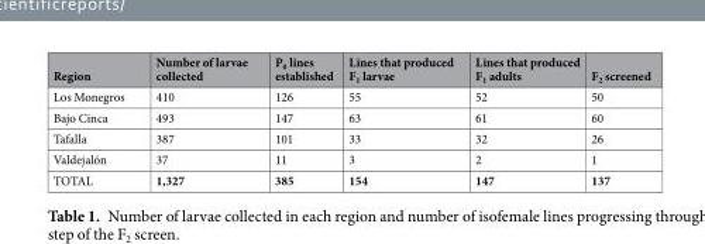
<table><thead><tr><td>Region</td><td>Number of larvae collected</td><td>P<sub>0</sub> lines established</td><td>Lines that produced F<sub>1</sub> larvae</td><td>Lines that produced F<sub>1</sub> adults</td><td>F<sub>2</sub> screened</td></tr></thead><tbody><tr><td>Los Monegros</td><td>410</td><td>126</td><td>55</td><td>52</td><td>50</td></tr><tr><td>Bajo Cinca</td><td>493</td><td>147</td><td>63</td><td>61</td><td>60</td></tr><tr><td>Tafalla</td><td>387</td><td>101</td><td>33</td><td>32</td><td>26</td></tr><tr><td>Valdejalón</td><td>37</td><td>11</td><td>3</td><td>2</td><td>1</td></tr><tr><td>TOTAL</td><td>1,327</td><td>385</td><td>154</td><td>147</td><td>137</td></tr></tbody></table>